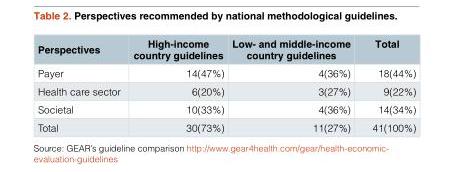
<table><thead><tr><td>Perspectives</td><td>High-income country guidelines</td><td>Low- and middle-income country guidelines</td><td>Total</td></tr></thead><tbody><tr><td>Payer</td><td>14(47%)</td><td>4(36%)</td><td>18(44%)</td></tr><tr><td>Health care sector</td><td>6(20%)</td><td>3(27%)</td><td>9(22%)</td></tr><tr><td>Societal</td><td>10(33%)</td><td>4(36%)</td><td>14(34%)</td></tr><tr><td>Total</td><td>30(73%)</td><td>11(27%)</td><td>41(100%)</td></tr></tbody></table>